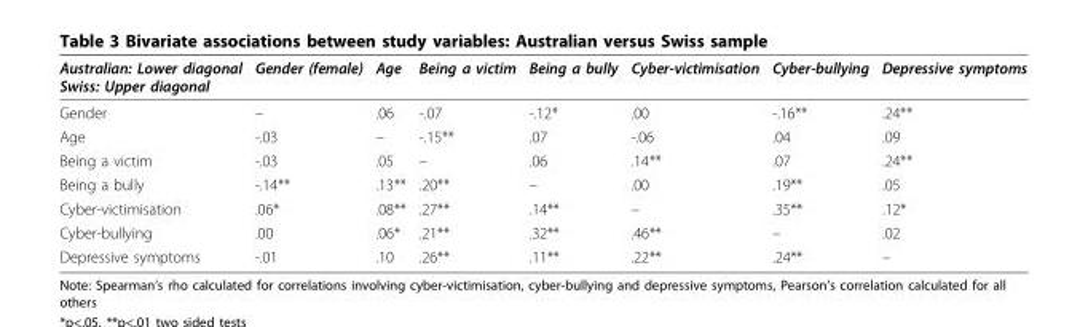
<table><thead><tr><td>Australian: Lower diagonal Swiss: Upper diagonal</td><td>Gender (female)</td><td>Age</td><td>Being a victim</td><td>Being a bully</td><td>Cyber-victimisation</td><td>Cyber-bullying</td><td>Depressive symptoms</td></tr></thead><tbody><tr><td>Gender</td><td>–</td><td>.06</td><td>-.07</td><td>-.12*</td><td>.00</td><td>-.16**</td><td>.24**</td></tr><tr><td>Age</td><td>-.03</td><td>–</td><td>-.15**</td><td>.07</td><td>-.06</td><td>.04</td><td>.09</td></tr><tr><td>Being a victim</td><td>-.03</td><td>.05</td><td>–</td><td>.06</td><td>.14**</td><td>.07</td><td>.24**</td></tr><tr><td>Being a bully</td><td>-.14**</td><td>.13**</td><td>.20**</td><td>–</td><td>.00</td><td>.19**</td><td>.05</td></tr><tr><td>Cyber-victimisation</td><td>.06*</td><td>.08**</td><td>.27**</td><td>.14**</td><td>–</td><td>.35**</td><td>.12*</td></tr><tr><td>Cyber-bullying</td><td>.00</td><td>.06*</td><td>.21**</td><td>.32**</td><td>.46**</td><td>–</td><td>.02</td></tr><tr><td>Depressive symptoms</td><td>-.01</td><td>.10</td><td>.26**</td><td>.11**</td><td>.22**</td><td>.24**</td><td>–</td></tr></tbody></table>